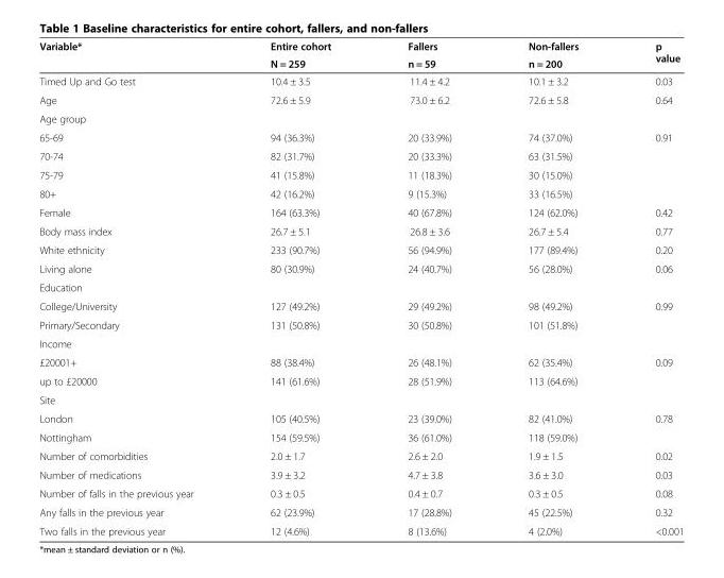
<table><thead><tr><td rowspan="2">Variable*</td><td rowspan="2">Entire cohort N = 259</td><td rowspan="2">Fallers n = 59</td><td rowspan="2">Non-fallers n = 200</td><td rowspan="2">p value</td></tr><tr></tr></thead><tbody><tr><td>Timed Up and Go test</td><td>10.4 ± 3.5</td><td>11.4 ± 4.2</td><td>10.1 ± 3.2</td><td>0.03</td></tr><tr><td>Age</td><td>72.6 ± 5.9</td><td>73.0 ± 6.2</td><td>72.6 ± 5.8</td><td>0.64</td></tr><tr><td colspan="5">Age group</td></tr><tr><td>65-69</td><td>94 (36.3%)</td><td>20 (33.9%)</td><td>74 (37.0%)</td><td>0.91</td></tr><tr><td>70-74</td><td>82 (31.7%)</td><td>20 (33.3%)</td><td>63 (31.5%)</td><td></td></tr><tr><td>75-79</td><td>41 (15.8%)</td><td>11 (18.3%)</td><td>30 (15.0%)</td><td></td></tr><tr><td>80+</td><td>42 (16.2%)</td><td>9 (15.3%)</td><td>33 (16.5%)</td><td></td></tr><tr><td>Female</td><td>164 (63.3%)</td><td>40 (67.8%)</td><td>124 (62.0%)</td><td>0.42</td></tr><tr><td>Body mass index</td><td>26.7 ± 5.1</td><td>26.8 ± 3.6</td><td>26.7 ± 5.4</td><td>0.77</td></tr><tr><td>White ethnicity</td><td>233 (90.7%)</td><td>56 (94.9%)</td><td>177 (89.4%)</td><td>0.20</td></tr><tr><td>Living alone</td><td>80 (30.9%)</td><td>24 (40.7%)</td><td>56 (28.0%)</td><td>0.06</td></tr><tr><td colspan="5">Education</td></tr><tr><td>College/University</td><td>127 (49.2%)</td><td>29 (49.2%)</td><td>98 (49.2%)</td><td>0.99</td></tr><tr><td>Primary/Secondary</td><td>131 (50.8%)</td><td>30 (50.8%)</td><td>101 (51.8%)</td><td></td></tr><tr><td colspan="5">Income</td></tr><tr><td>£20001+</td><td>88 (38.4%)</td><td>26 (48.1%)</td><td>62 (35.4%)</td><td>0.09</td></tr><tr><td>up to £20000</td><td>141 (61.6%)</td><td>28 (51.9%)</td><td>113 (64.6%)</td><td></td></tr><tr><td colspan="5">Site</td></tr><tr><td>London</td><td>105 (40.5%)</td><td>23 (39.0%)</td><td>82 (41.0%)</td><td>0.78</td></tr><tr><td>Nottingham</td><td>154 (59.5%)</td><td>36 (61.0%)</td><td>118 (59.0%)</td><td></td></tr><tr><td>Number of comorbidities</td><td>2.0 ± 1.7</td><td>2.6 ± 2.0</td><td>1.9 ± 1.5</td><td>0.02</td></tr><tr><td>Number of medications</td><td>3.9 ± 3.2</td><td>4.7 ± 3.8</td><td>3.6 ± 3.0</td><td>0.03</td></tr><tr><td>Number of falls in the previous year</td><td>0.3 ± 0.5</td><td>0.4 ± 0.7</td><td>0.3 ± 0.5</td><td>0.08</td></tr><tr><td>Any falls in the previous year</td><td>62 (23.9%)</td><td>17 (28.8%)</td><td>45 (22.5%)</td><td>0.32</td></tr><tr><td>Two falls in the previous year</td><td>12 (4.6%)</td><td>8 (13.6%)</td><td>4 (2.0%)</td><td>&lt;0.001</td></tr></tbody></table>